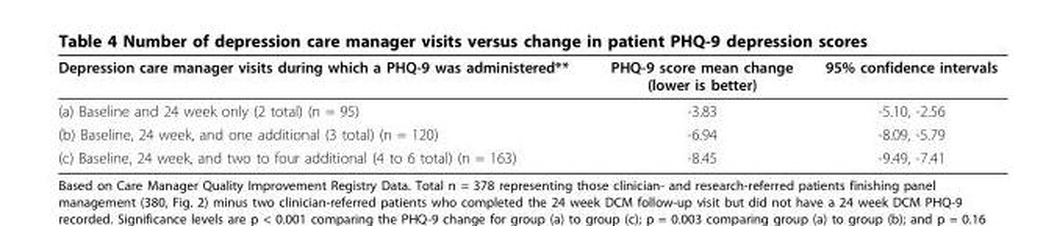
<table><thead><tr><td>Depression care manager visits during which a PHQ-9 was administered**</td><td>PHQ-9 score mean change (lower is better)</td><td>95% confidence intervals</td></tr></thead><tbody><tr><td>(a) Baseline and 24 week only (2 total) (n = 95)</td><td>-3.83</td><td>-5.10, -2.56</td></tr><tr><td>(b) Baseline, 24 week, and one additional (3 total) (n = 120)</td><td>-6.94</td><td>-8.09, -5.79</td></tr><tr><td>(c) Baseline, 24 week, and two to four additional (4 to 6 total) (n = 163)</td><td>-8.45</td><td>-9.49, -7.41</td></tr></tbody></table>